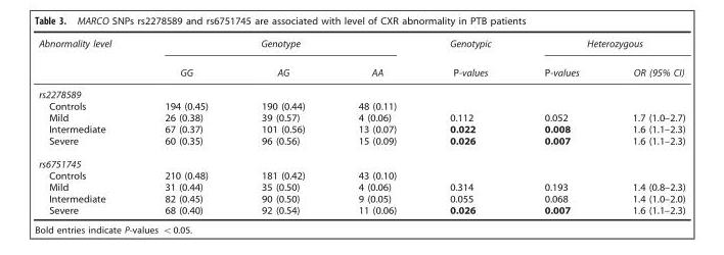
<table><thead><tr><td rowspan="2">Abnormality level</td><td colspan="3">Genotype</td><td rowspan="2">Genotypic P-values</td><td colspan="2">Heterozygous</td></tr><tr><td>GG</td><td>AG</td><td>AA</td><td>P-values</td><td>OR (95% CI)</td></tr></thead><tbody><tr><td colspan="7">rs2278589</td></tr><tr><td>Controls</td><td>194 (0.45)</td><td>190 (0.44)</td><td>48 (0.11)</td><td></td><td></td><td></td></tr><tr><td>Mild</td><td>26 (0.38)</td><td>39 (0.57)</td><td>4 (0.06)</td><td>0.112</td><td>0.052</td><td>1.7 (1.0–2.7)</td></tr><tr><td>Intermediate</td><td>67 (0.37)</td><td>101 (0.56)</td><td>13 (0.07)</td><td>0.022</td><td>0.008</td><td>1.6 (1.1–2.3)</td></tr><tr><td>Severe</td><td>60 (0.35)</td><td>96 (0.56)</td><td>15 (0.09)</td><td>0.026</td><td>0.007</td><td>1.6 (1.1–2.3)</td></tr><tr><td colspan="7">rs6751745</td></tr><tr><td>Controls</td><td>210 (0.48)</td><td>181 (0.42)</td><td>43 (0.10)</td><td></td><td></td><td></td></tr><tr><td>Mild</td><td>31 (0.44)</td><td>35 (0.50)</td><td>4 (0.06)</td><td>0.314</td><td>0.193</td><td>1.4 (0.8–2.3)</td></tr><tr><td>Intermediate</td><td>82 (0.45)</td><td>90 (0.50)</td><td>9 (0.05)</td><td>0.055</td><td>0.068</td><td>1.4 (1.0–2.0)</td></tr><tr><td>Severe</td><td>68 (0.40)</td><td>92 (0.54)</td><td>11 (0.06)</td><td>0.026</td><td>0.007</td><td>1.6 (1.1–2.3)</td></tr></tbody></table>